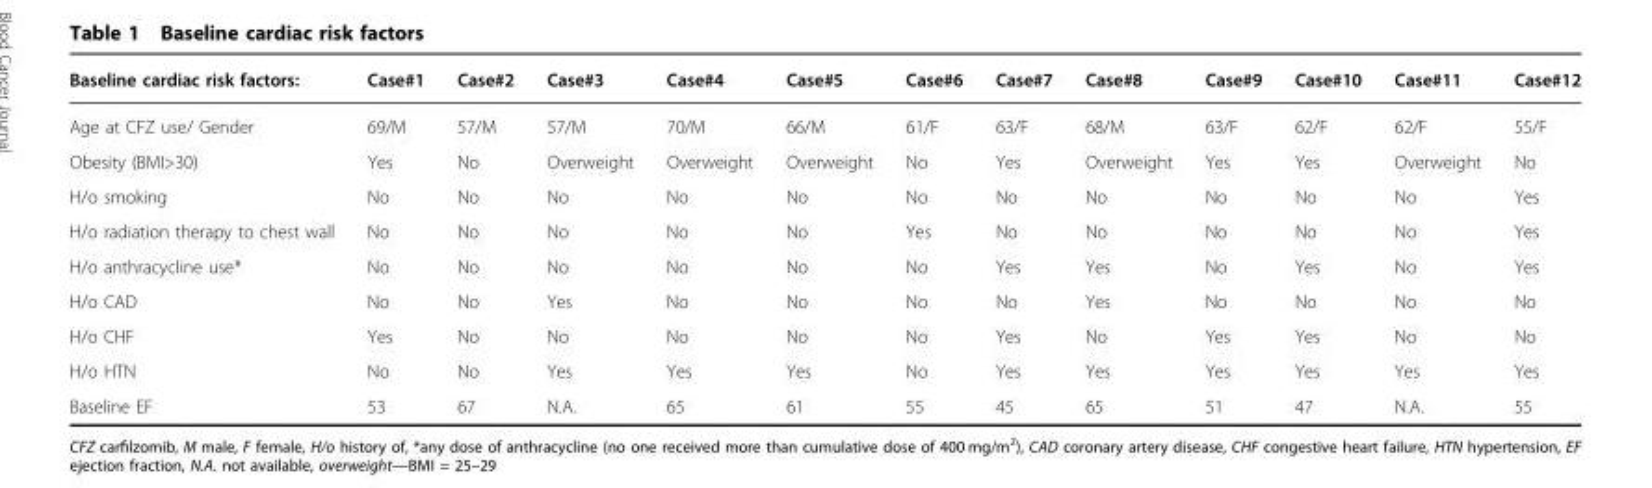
<table><thead><tr><td>Baseline cardiac risk factors:</td><td>Case#1</td><td>Case#2</td><td>Case#3</td><td>Case#4</td><td>Case#5</td><td>Case#6</td><td>Case#7</td><td>Case#8</td><td>Case#9</td><td>Case#10</td><td>Case#11</td><td>Case#12</td></tr></thead><tbody><tr><td>Age at CFZ use/ Gender</td><td>69/M</td><td>57/M</td><td>57/M</td><td>70/M</td><td>66/M</td><td>61/F</td><td>63/F</td><td>68/M</td><td>63/F</td><td>62/F</td><td>62/F</td><td>55/F</td></tr><tr><td>Obesity (BMI&gt;30)</td><td>Yes</td><td>No</td><td>Overweight</td><td>Overweight</td><td>Overweight</td><td>No</td><td>Yes</td><td>Overweight</td><td>Yes</td><td>Yes</td><td>Overweight</td><td>No</td></tr><tr><td>H/o smoking</td><td>No</td><td>No</td><td>No</td><td>No</td><td>No</td><td>No</td><td>No</td><td>No</td><td>No</td><td>No</td><td>No</td><td>Yes</td></tr><tr><td>H/o radiation therapy to chest wall</td><td>No</td><td>No</td><td>No</td><td>No</td><td>No</td><td>Yes</td><td>No</td><td>No</td><td>No</td><td>No</td><td>No</td><td>Yes</td></tr><tr><td>H/o anthracycline use*</td><td>No</td><td>No</td><td>No</td><td>No</td><td>No</td><td>No</td><td>Yes</td><td>Yes</td><td>No</td><td>Yes</td><td>No</td><td>Yes</td></tr><tr><td>H/o CAD</td><td>No</td><td>No</td><td>Yes</td><td>No</td><td>No</td><td>No</td><td>No</td><td>Yes</td><td>No</td><td>No</td><td>No</td><td>No</td></tr><tr><td>H/o CHF</td><td>Yes</td><td>No</td><td>No</td><td>No</td><td>No</td><td>No</td><td>Yes</td><td>No</td><td>Yes</td><td>Yes</td><td>No</td><td>No</td></tr><tr><td>H/o HTN</td><td>No</td><td>No</td><td>Yes</td><td>Yes</td><td>Yes</td><td>No</td><td>Yes</td><td>Yes</td><td>Yes</td><td>Yes</td><td>Yes</td><td>Yes</td></tr><tr><td>Baseline EF</td><td>53</td><td>67</td><td>N.A.</td><td>65</td><td>61</td><td>55</td><td>45</td><td>65</td><td>51</td><td>47</td><td>N.A.</td><td>55</td></tr></tbody></table>